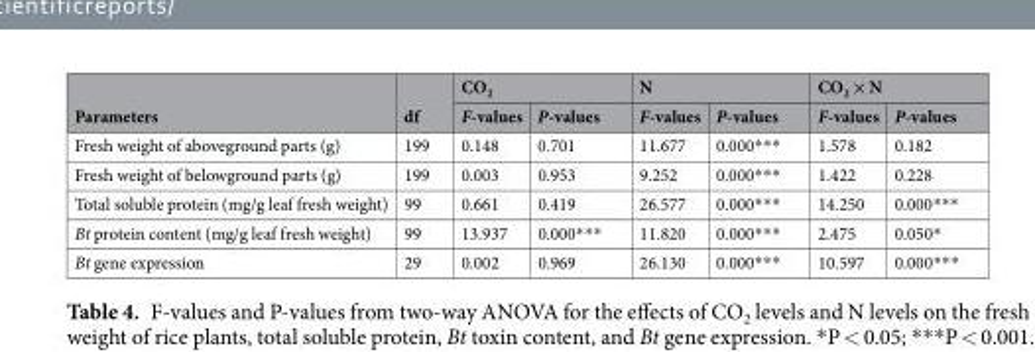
<table><thead><tr><td rowspan="2">Parameters</td><td rowspan="2">df</td><td colspan="2">CO<sub>2</sub></td><td colspan="2">N</td><td colspan="2">CO<sub>2</sub> × N</td></tr><tr><td>F-values</td><td>P-values</td><td>F-values</td><td>P-values</td><td>F-values</td><td>P-values</td></tr></thead><tbody><tr><td>Fresh weight of aboveground parts (g)</td><td>199</td><td>0.148</td><td>0.701</td><td>11.677</td><td>0.000***</td><td>1.578</td><td>0.182</td></tr><tr><td>Fresh weight of belowground parts (g)</td><td>199</td><td>0.003</td><td>0.953</td><td>9.252</td><td>0.000***</td><td>1.422</td><td>0.228</td></tr><tr><td>Total soluble protein (mg/g leaf fresh weight)</td><td>99</td><td>0.661</td><td>0.419</td><td>26.577</td><td>0.000***</td><td>14.250</td><td>0.000***</td></tr><tr><td>Bt protein content (mg/g leaf fresh weight)</td><td>99</td><td>13.937</td><td>0.000***</td><td>11.820</td><td>0.000***</td><td>2.475</td><td>0.050*</td></tr><tr><td>Bt gene expression</td><td>29</td><td>0.002</td><td>0.969</td><td>26.130</td><td>0.000***</td><td>10.597</td><td>0.000***</td></tr></tbody></table>